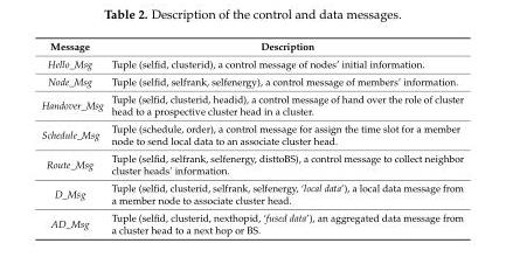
<table><thead><tr><td>Message</td><td>Description</td></tr></thead><tbody><tr><td>Hello_Msg</td><td>Tuple (selfid, clusterid), a control message of nodes’ initial information.</td></tr><tr><td>Node_Msg</td><td>Tuple (selfid, selfrank, selfenergy), a control message of members’ information.</td></tr><tr><td>Handover_Msg</td><td>Tuple (selfid, clusterid, headid), a control message of hand over the role of cluster head to a prospective cluster head in a cluster.</td></tr><tr><td>Schedule_Msg</td><td>Tuple (schedule, order), a control message for assign the time slot for a member node to send local data to an associate cluster head.</td></tr><tr><td>Route_Msg</td><td>Tuple (selfid, selfrank, selfenergy, disttoBS), a control message to collect neighbor cluster heads’ information.</td></tr><tr><td>D_Msg</td><td>Tuple (selfid, clusterid, selfrank, selfenergy, ‘local data’), a local data message from a member node to associate cluster head.</td></tr><tr><td>AD_Msg</td><td>Tuple (selfid, clusterid, nexthopid, ‘fused data’), an aggregated data message from a cluster head to a next hop or BS.</td></tr></tbody></table>